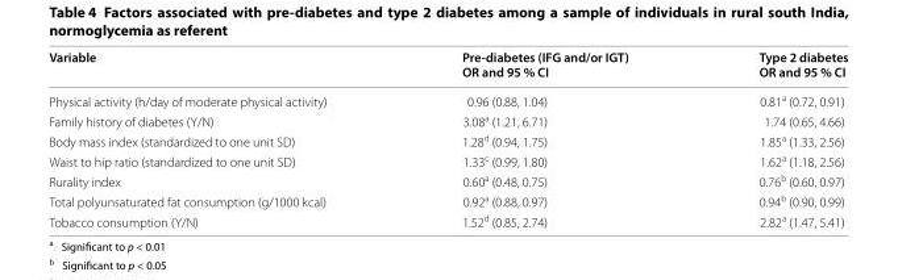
<table><thead><tr><td>Variable</td><td>Pre-diabetes (IFG and/or IGT) OR and 95 % CI</td><td>Type 2 diabetes OR and 95 % CI</td></tr></thead><tbody><tr><td>Physical activity (h/day of moderate physical activity)</td><td>0.96 (0.88, 1.04)</td><td>0.81<sup>a</sup> (0.72, 0.91)</td></tr><tr><td>Family history of diabetes (Y/N)</td><td>3.08<sup>a</sup> (1.21, 6.71)</td><td>1.74 (0.65, 4.66)</td></tr><tr><td>Body mass index (standardized to one unit SD)</td><td>1.28<sup>d</sup> (0.94, 1.75)</td><td>1.85<sup>a</sup> (1.33, 2.56)</td></tr><tr><td>Waist to hip ratio (standardized to one unit SD)</td><td>1.33<sup>c</sup> (0.99, 1.80)</td><td>1.62<sup>a</sup> (1.18, 2.56)</td></tr><tr><td>Rurality index</td><td>0.60<sup>a</sup> (0.48, 0.75)</td><td>0.76<sup>b</sup> (0.60, 0.97)</td></tr><tr><td>Total polyunsaturated fat consumption (g/1000 kcal)</td><td>0.92<sup>a</sup> (0.88, 0.97)</td><td>0.94<sup>b</sup> (0.90, 0.99)</td></tr><tr><td>Tobacco consumption (Y/N)</td><td>1.52<sup>d</sup> (0.85, 2.74)</td><td>2.82<sup>a</sup> (1.47, 5.41)</td></tr></tbody></table>